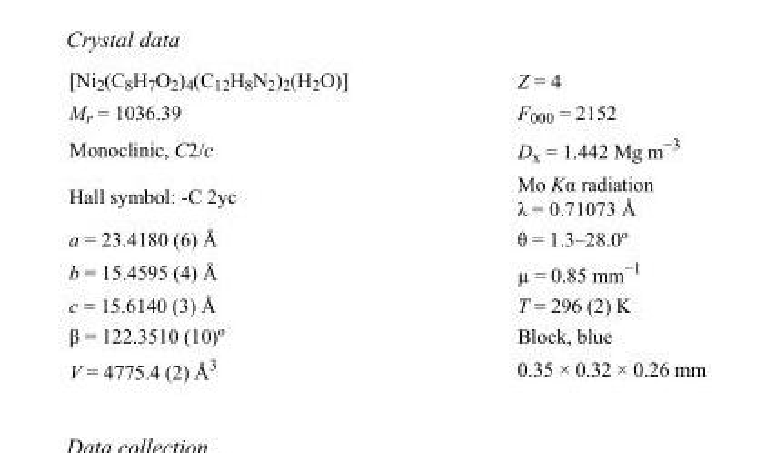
<table><tbody><tr><td>[Ni<sub>2</sub>(C<sub>8</sub>H<sub>7</sub>O<sub>2</sub>)<sub>4</sub>(C<sub>12</sub>H<sub>8</sub>N<sub>2</sub>)<sub>2</sub>(H<sub>2</sub>O)]</td><td>Z = 4</td></tr><tr><td>M<sub>r</sub> = 1036.39</td><td>F<sub>000</sub> = 2152</td></tr><tr><td>Monoclinic, C2/c</td><td>D<sub>x</sub> = 1.442 Mg m<sup>−3</sup></td></tr><tr><td>Hall symbol: -C 2yc</td><td>Mo Kα radiation λ = 0.71073 Å</td></tr><tr><td>a = 23.4180 (6) Å</td><td>θ = 1.3–28.0º</td></tr><tr><td>b = 15.4595 (4) Å</td><td>µ = 0.85 mm<sup>−1</sup></td></tr><tr><td>c = 15.6140 (3) Å</td><td>T = 296 (2) K</td></tr><tr><td>β = 122.3510 (10)º</td><td>Block, blue</td></tr><tr><td>V = 4775.4 (2) Å<sup>3</sup></td><td>0.35 × 0.32 × 0.26 mm</td></tr></tbody></table>